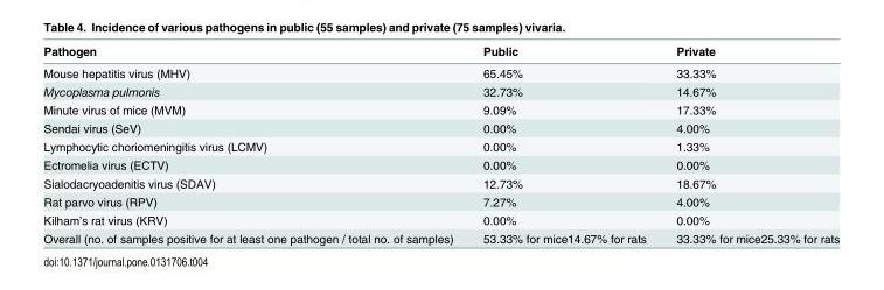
<table><thead><tr><td>Pathogen</td><td>Public</td><td>Private</td></tr></thead><tbody><tr><td>Mouse hepatitis virus (MHV)</td><td>65.45%</td><td>33.33%</td></tr><tr><td>Mycoplasma pulmonis</td><td>32.73%</td><td>14.67%</td></tr><tr><td>Minute virus of mice (MVM)</td><td>9.09%</td><td>17.33%</td></tr><tr><td>Sendai virus (SeV)</td><td>0.00%</td><td>4.00%</td></tr><tr><td>Lymphocytic choriomeningitis virus (LCMV)</td><td>0.00%</td><td>1.33%</td></tr><tr><td>Ectromelia virus (ECTV)</td><td>0.00%</td><td>0.00%</td></tr><tr><td>Sialodacryoadenitis virus (SDAV)</td><td>12.73%</td><td>18.67%</td></tr><tr><td>Rat parvo virus (RPV)</td><td>7.27%</td><td>4.00%</td></tr><tr><td>Kilham’s rat virus (KRV)</td><td>0.00%</td><td>0.00%</td></tr><tr><td>Overall (no. of samples positive for at least one pathogen / total no. of samples)</td><td>53.33% for mice14.67% for rats</td><td>33.33% for mice25.33% for rats</td></tr></tbody></table>